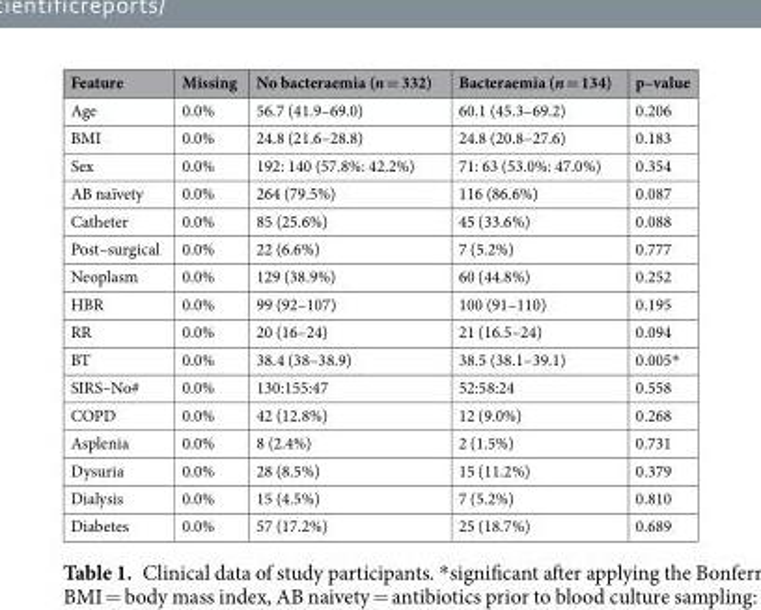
<table><thead><tr><td>Feature</td><td>Missing</td><td>No bacteraemia (n = 332)</td><td>Bacteraemia (n = 134)</td><td>p–value</td></tr></thead><tbody><tr><td>Age</td><td>0.0%</td><td>56.7 (41.9–69.0)</td><td>60.1 (45.3–69.2)</td><td>0.206</td></tr><tr><td>BMI</td><td>0.0%</td><td>24.8 (21.6–28.8)</td><td>24.8 (20.8–27.6)</td><td>0.183</td></tr><tr><td>Sex</td><td>0.0%</td><td>192: 140 (57.8%: 42.2%)</td><td>71: 63 (53.0%: 47.0%)</td><td>0.354</td></tr><tr><td>AB naïvety</td><td>0.0%</td><td>264 (79.5%)</td><td>116 (86.6%)</td><td>0.087</td></tr><tr><td>Catheter</td><td>0.0%</td><td>85 (25.6%)</td><td>45 (33.6%)</td><td>0.088</td></tr><tr><td>Post–surgical</td><td>0.0%</td><td>22 (6.6%)</td><td>7 (5.2%)</td><td>0.777</td></tr><tr><td>Neoplasm</td><td>0.0%</td><td>129 (38.9%)</td><td>60 (44.8%)</td><td>0.252</td></tr><tr><td>HBR</td><td>0.0%</td><td>99 (92–107)</td><td>100 (91–110)</td><td>0.195</td></tr><tr><td>RR</td><td>0.0%</td><td>20 (16–24)</td><td>21 (16.5–24)</td><td>0.094</td></tr><tr><td>BT</td><td>0.0%</td><td>38.4 (38–38.9)</td><td>38.5 (38.1–39.1)</td><td>0.005*</td></tr><tr><td>SIRS–No#</td><td>0.0%</td><td>130:155:47</td><td>52:58:24</td><td>0.558</td></tr><tr><td>COPD</td><td>0.0%</td><td>42 (12.8%)</td><td>12 (9.0%)</td><td>0.268</td></tr><tr><td>Asplenia</td><td>0.0%</td><td>8 (2.4%)</td><td>2 (1.5%)</td><td>0.731</td></tr><tr><td>Dysuria</td><td>0.0%</td><td>28 (8.5%)</td><td>15 (11.2%)</td><td>0.379</td></tr><tr><td>Dialysis</td><td>0.0%</td><td>15 (4.5%)</td><td>7 (5.2%)</td><td>0.810</td></tr><tr><td>Diabetes</td><td>0.0%</td><td>57 (17.2%)</td><td>25 (18.7%)</td><td>0.689</td></tr></tbody></table>